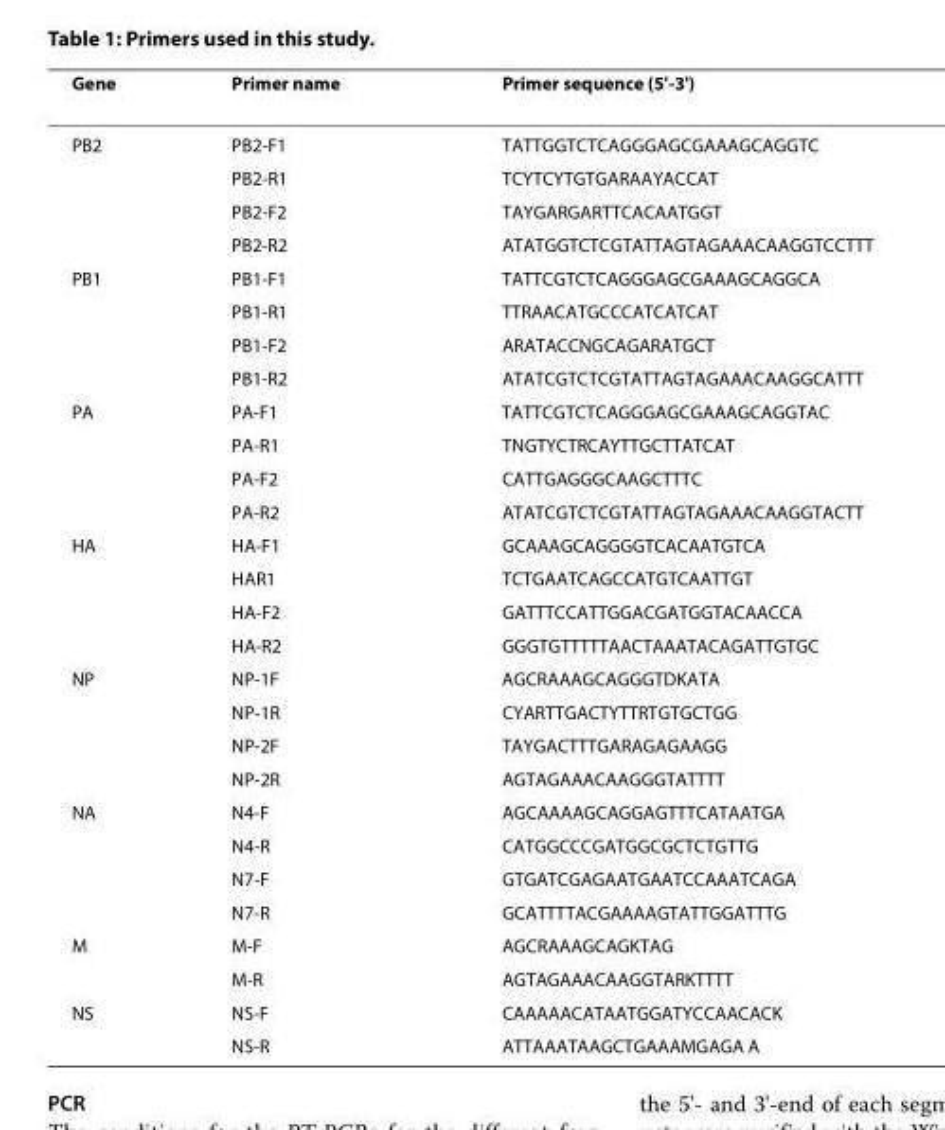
<table><thead><tr><td>Gene</td><td>Primer name</td><td>Primer sequence (5&#x27;-3&#x27;)</td></tr></thead><tbody><tr><td rowspan="4">PB2</td><td>PB2-F1</td><td>TATTGGTCTCAGGGAGCGAAAGCAGGTC</td></tr><tr><td>PB2-R1</td><td>TCYTCYTGTGARAAYACCAT</td></tr><tr><td>PB2-F2</td><td>TAYGARGARTTCACAATGGT</td></tr><tr><td>PB2-R2</td><td>ATATGGTCTCGTATTAGTAGAAACAAGGTCCTTT</td></tr><tr><td rowspan="4">PB1</td><td>PB1-F1</td><td>TATTCGTCTCAGGGAGCGAAAGCAGGCA</td></tr><tr><td>PB1-R1</td><td>TTRAACATGCCCATCATCAT</td></tr><tr><td>PB1-F2</td><td>ARATACCNGCAGARATGCT</td></tr><tr><td>PB1-R2</td><td>ATATCGTCTCGTATTAGTAGAAACAAGGCATTT</td></tr><tr><td rowspan="4">PA</td><td>PA-F1</td><td>TATTCGTCTCAGGGAGCGAAAGCAGGTAC</td></tr><tr><td>PA-R1</td><td>TNGTYCTRCAYTTGCTTATCAT</td></tr><tr><td>PA-F2</td><td>CATTGAGGGCAAGCTTTC</td></tr><tr><td>PA-R2</td><td>ATATCGTCTCGTATTAGTAGAAACAAGGTACTT</td></tr><tr><td rowspan="4">HA</td><td>HA-F1</td><td>GCAAAGCAGGGGTCACAATGTCA</td></tr><tr><td>HAR1</td><td>TCTGAATCAGCCATGTCAATTGT</td></tr><tr><td>HA-F2</td><td>GATTTCCATTGGACGATGGTACAACCA</td></tr><tr><td>HA-R2</td><td>GGGTGTTTTTAACTAAATACAGATTGTGC</td></tr><tr><td rowspan="4">NP</td><td>NP-1F</td><td>AGCRAAAGCAGGGTDKATA</td></tr><tr><td>NP-1R</td><td>CYARTTGACTYTTRTGTGCTGG</td></tr><tr><td>NP-2F</td><td>TAYGACTTTGARAGAGAAGG</td></tr><tr><td>NP-2R</td><td>AGTAGAAACAAGGGTATTTT</td></tr><tr><td rowspan="4">NA</td><td>N4-F</td><td>AGCAAAAGCAGGAGTTTCATAATGA</td></tr><tr><td>N4-R</td><td>CATGGCCCGATGGCGCTCTGTTG</td></tr><tr><td>N7-F</td><td>GTGATCGAGAATGAATCCAAATCAGA</td></tr><tr><td>N7-R</td><td>GCATTTTACGAAAAGTATTGGATTTG</td></tr><tr><td rowspan="2">M</td><td>M-F</td><td>AGCRAAAGCAGKTAG</td></tr><tr><td>M-R</td><td>AGTAGAAACAAGGTARKTTTT</td></tr><tr><td rowspan="2">NS</td><td>NS-F</td><td>CAAAAACATAATGGATYCCAACACK</td></tr><tr><td>NS-R</td><td>ATTAAATAAGCTGAAAMGAGA A</td></tr></tbody></table>